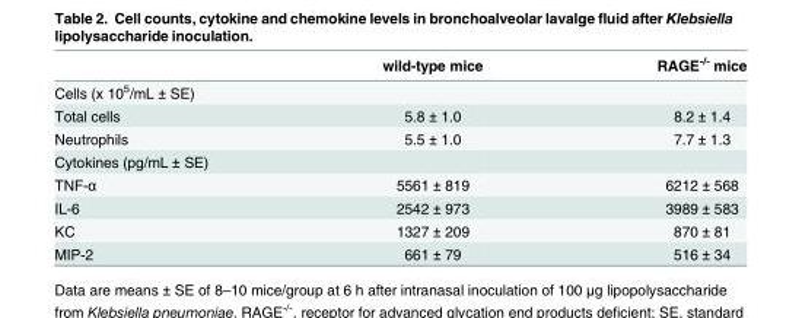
<table><thead><tr><td></td><td>wild-type mice</td><td>RAGE<sup>-/-</sup> mice</td></tr></thead><tbody><tr><td colspan="3">Cells (x 10<sup>5</sup>/mL ± SE)</td></tr><tr><td>Total cells</td><td>5.8 ± 1.0</td><td>8.2 ± 1.4</td></tr><tr><td>Neutrophils</td><td>5.5 ± 1.0</td><td>7.7 ± 1.3</td></tr><tr><td colspan="3">Cytokines (pg/mL ± SE)</td></tr><tr><td>TNF-α</td><td>5561 ± 819</td><td>6212 ± 568</td></tr><tr><td>IL-6</td><td>2542 ± 973</td><td>3989 ± 583</td></tr><tr><td>KC</td><td>1327 ± 209</td><td>870 ± 81</td></tr><tr><td>MIP-2</td><td>661 ± 79</td><td>516 ± 34</td></tr></tbody></table>